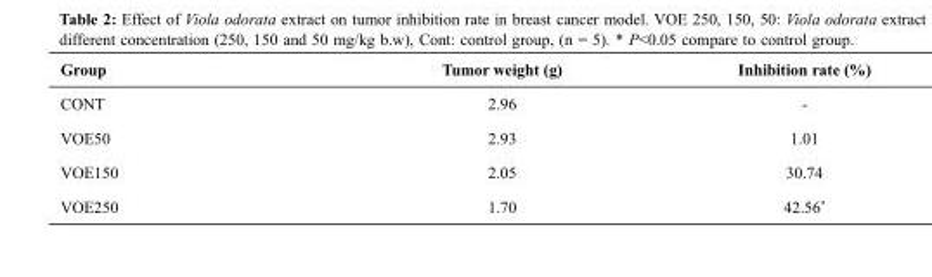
<table><thead><tr><td>Group</td><td>Tumor weight (g)</td><td>Inhibition rate (%)</td></tr></thead><tbody><tr><td>CONT</td><td>2.96</td><td>-</td></tr><tr><td>VOE50</td><td>2.93</td><td>1.01</td></tr><tr><td>VOE150</td><td>2.05</td><td>30.74</td></tr><tr><td>VOE250</td><td>1.70</td><td>42.56*</td></tr></tbody></table>